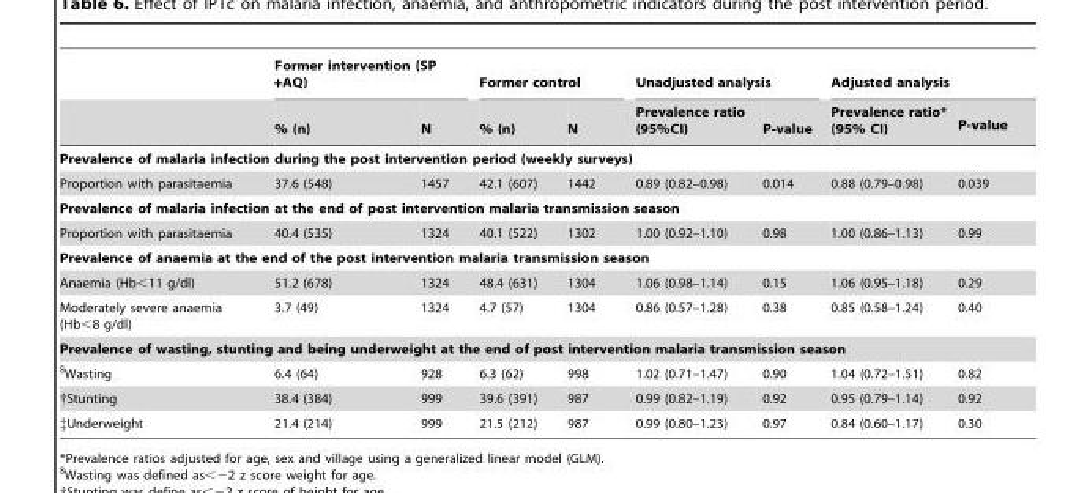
<table><thead><tr><td rowspan="2"></td><td colspan="2">Former intervention (SP +AQ)</td><td colspan="2">Former control</td><td colspan="2">Unadjusted analysis</td><td colspan="2">Adjusted analysis</td></tr><tr><td>% (n)</td><td>N</td><td>% (n)</td><td>N</td><td>Prevalence ratio (95%CI)</td><td>P-value</td><td>Prevalence ratio* (95% CI)</td><td>P-value</td></tr></thead><tbody><tr><td colspan="9">Prevalence of malaria infection during the post intervention period (weekly surveys)</td></tr><tr><td>Proportion with parasitaemia</td><td>37.6 (548)</td><td>1457</td><td>42.1 (607)</td><td>1442</td><td>0.89 (0.82–0.98)</td><td>0.014</td><td>0.88 (0.79–0.98)</td><td>0.039</td></tr><tr><td colspan="9">Prevalence of malaria infection at the end of post intervention malaria transmission season</td></tr><tr><td>Proportion with parasitaemia</td><td>40.4 (535)</td><td>1324</td><td>40.1 (522)</td><td>1302</td><td>1.00 (0.92–1.10)</td><td>0.98</td><td>1.00 (0.86–1.13)</td><td>0.99</td></tr><tr><td colspan="9">Prevalence of anaemia at the end of the post intervention malaria transmission season</td></tr><tr><td>Anaemia (Hb&lt;11 g/dl)</td><td>51.2 (678)</td><td>1324</td><td>48.4 (631)</td><td>1304</td><td>1.06 (0.98–1.14)</td><td>0.15</td><td>1.06 (0.95–1.18)</td><td>0.29</td></tr><tr><td>Moderately severe anaemia (Hb&lt;8 g/dl)</td><td>3.7 (49)</td><td>1324</td><td>4.7 (57)</td><td>1304</td><td>0.86 (0.57–1.28)</td><td>0.38</td><td>0.85 (0.58–1.24)</td><td>0.40</td></tr><tr><td colspan="9">Prevalence of wasting, stunting and being underweight at the end of post intervention malaria transmission season</td></tr><tr><td>$Wasting</td><td>6.4 (64)</td><td>928</td><td>6.3 (62)</td><td>998</td><td>1.02 (0.71–1.47)</td><td>0.90</td><td>1.04 (0.72–1.51)</td><td>0.82</td></tr><tr><td>†Stunting</td><td>38.4 (384)</td><td>999</td><td>39.6 (391)</td><td>987</td><td>0.99 (0.82–1.19)</td><td>0.92</td><td>0.95 (0.79–1.14)</td><td>0.92</td></tr><tr><td>‡Underweight</td><td>21.4 (214)</td><td>999</td><td>21.5 (212)</td><td>987</td><td>0.99 (0.80–1.23)</td><td>0.97</td><td>0.84 (0.60–1.17)</td><td>0.30</td></tr></tbody></table>